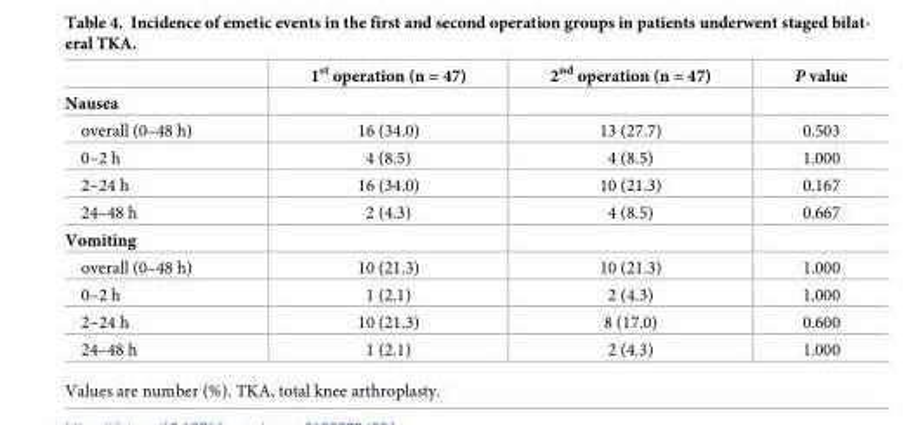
<table><thead><tr><td></td><td>1<sup>st</sup> operation (n = 47)</td><td>2<sup>nd</sup> operation (n = 47)</td><td>P value</td></tr></thead><tbody><tr><td colspan="4">Nausea</td></tr><tr><td>overall (0–48 h)</td><td>16 (34.0)</td><td>13 (27.7)</td><td>0.503</td></tr><tr><td>0–2 h</td><td>4 (8.5)</td><td>4 (8.5)</td><td>1.000</td></tr><tr><td>2–24 h</td><td>16 (34.0)</td><td>10 (21.3)</td><td>0.167</td></tr><tr><td>24–48 h</td><td>2 (4.3)</td><td>4 (8.5)</td><td>0.667</td></tr><tr><td colspan="4">Vomiting</td></tr><tr><td>overall (0–48 h)</td><td>10 (21.3)</td><td>10 (21.3)</td><td>1.000</td></tr><tr><td>0–2 h</td><td>1 (2.1)</td><td>2 (4.3)</td><td>1.000</td></tr><tr><td>2–24 h</td><td>10 (21.3)</td><td>8 (17.0)</td><td>0.600</td></tr><tr><td>24–48 h</td><td>1 (2.1)</td><td>2 (4.3)</td><td>1.000</td></tr></tbody></table>